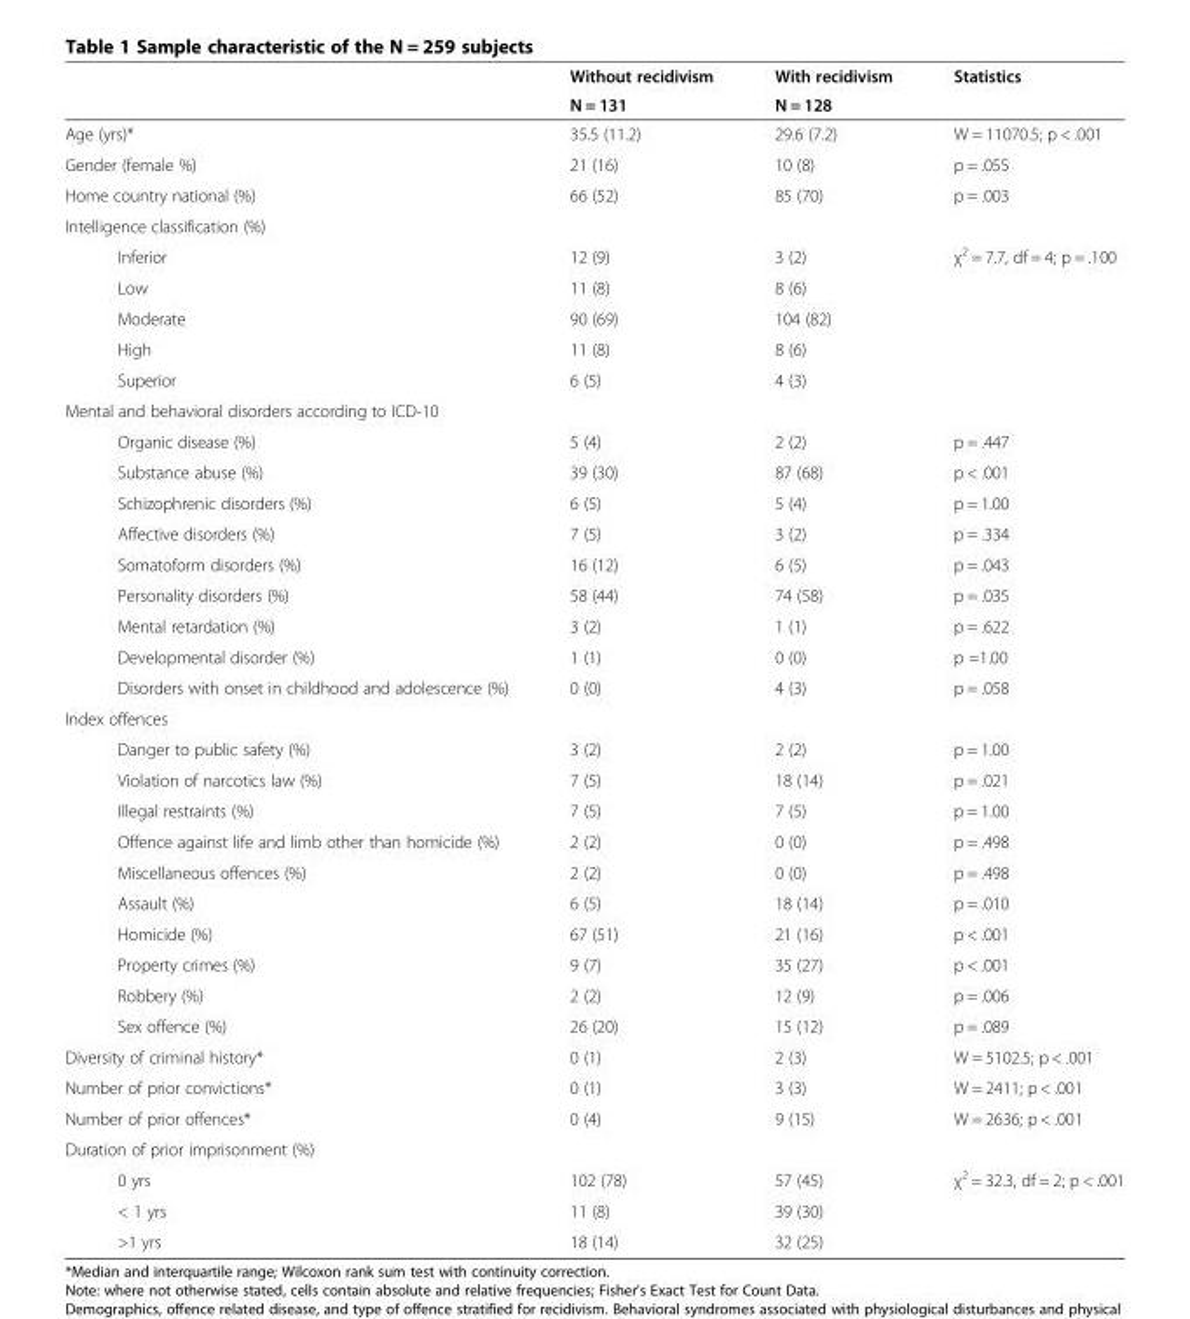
<table><thead><tr><td rowspan="2"></td><td rowspan="2">Without recidivism N = 131</td><td rowspan="2">With recidivism N = 128</td><td rowspan="2">Statistics</td></tr><tr></tr></thead><tbody><tr><td>Age (yrs)*</td><td>35.5 (11.2)</td><td>29.6 (7.2)</td><td>W = 11070.5; p &lt; .001</td></tr><tr><td>Gender (female %)</td><td>21 (16)</td><td>10 (8)</td><td>p = .055</td></tr><tr><td>Home country national (%)</td><td>66 (52)</td><td>85 (70)</td><td>p = .003</td></tr><tr><td colspan="4">Intelligence classification (%)</td></tr><tr><td>Inferior</td><td>12 (9)</td><td>3 (2)</td><td rowspan="5">χ<sup>2</sup> = 7.7, df = 4; p = .100</td></tr><tr><td>Low</td><td>11 (8)</td><td>8 (6)</td></tr><tr><td>Moderate</td><td>90 (69)</td><td>104 (82)</td></tr><tr><td>High</td><td>11 (8)</td><td>8 (6)</td></tr><tr><td>Superior</td><td>6 (5)</td><td>4 (3)</td></tr><tr><td colspan="4">Mental and behavioral disorders according to ICD-10</td></tr><tr><td>Organic disease (%)</td><td>5 (4)</td><td>2 (2)</td><td>p = .447</td></tr><tr><td>Substance abuse (%)</td><td>39 (30)</td><td>87 (68)</td><td>p &lt; .001</td></tr><tr><td>Schizophrenic disorders (%)</td><td>6 (5)</td><td>5 (4)</td><td>p = 1.00</td></tr><tr><td>Affective disorders (%)</td><td>7 (5)</td><td>3 (2)</td><td>p = .334</td></tr><tr><td>Somatoform disorders (%)</td><td>16 (12)</td><td>6 (5)</td><td>p = .043</td></tr><tr><td>Personality disorders (%)</td><td>58 (44)</td><td>74 (58)</td><td>p = .035</td></tr><tr><td>Mental retardation (%)</td><td>3 (2)</td><td>1 (1)</td><td>p = .622</td></tr><tr><td>Developmental disorder (%)</td><td>1 (1)</td><td>0 (0)</td><td>p =1.00</td></tr><tr><td>Disorders with onset in childhood and adolescence (%)</td><td>0 (0)</td><td>4 (3)</td><td>p = .058</td></tr><tr><td colspan="4">Index offences</td></tr><tr><td>Danger to public safety (%)</td><td>3 (2)</td><td>2 (2)</td><td>p = 1.00</td></tr><tr><td>Violation of narcotics law (%)</td><td>7 (5)</td><td>18 (14)</td><td>p = .021</td></tr><tr><td>Illegal restraints (%)</td><td>7 (5)</td><td>7 (5)</td><td>p = 1.00</td></tr><tr><td>Offence against life and limb other than homicide (%)</td><td>2 (2)</td><td>0 (0)</td><td>p = .498</td></tr><tr><td>Miscellaneous offences (%)</td><td>2 (2)</td><td>0 (0)</td><td>p = .498</td></tr><tr><td>Assault (%)</td><td>6 (5)</td><td>18 (14)</td><td>p = .010</td></tr><tr><td>Homicide (%)</td><td>67 (51)</td><td>21 (16)</td><td>p &lt; .001</td></tr><tr><td>Property crimes (%)</td><td>9 (7)</td><td>35 (27)</td><td>p &lt; .001</td></tr><tr><td>Robbery (%)</td><td>2 (2)</td><td>12 (9)</td><td>p = .006</td></tr><tr><td>Sex offence (%)</td><td>26 (20)</td><td>15 (12)</td><td>p = .089</td></tr><tr><td>Diversity of criminal history*</td><td>0 (1)</td><td>2 (3)</td><td>W = 5102.5; p &lt; .001</td></tr><tr><td>Number of prior convictions*</td><td>0 (1)</td><td>3 (3)</td><td>W = 2411; p &lt; .001</td></tr><tr><td>Number of prior offences*</td><td>0 (4)</td><td>9 (15)</td><td>W = 2636; p &lt; .001</td></tr><tr><td colspan="4">Duration of prior imprisonment (%)</td></tr><tr><td>0 yrs</td><td>102 (78)</td><td>57 (45)</td><td rowspan="3">χ<sup>2</sup> = 32.3, df = 2; p &lt; .001</td></tr><tr><td>&lt; 1 yrs</td><td>11 (8)</td><td>39 (30)</td></tr><tr><td>&gt;1 yrs</td><td>18 (14)</td><td>32 (25)</td></tr></tbody></table>